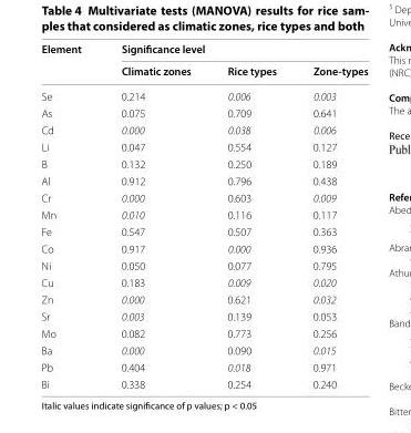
<table><thead><tr><td rowspan="2">Element</td><td colspan="3">Significance level</td></tr><tr><td>Climatic zones</td><td>Rice types</td><td>Zone-types</td></tr></thead><tbody><tr><td>Se</td><td>0.214</td><td>0.006</td><td>0.003</td></tr><tr><td>As</td><td>0.075</td><td>0.709</td><td>0.641</td></tr><tr><td>Cd</td><td>0.000</td><td>0.038</td><td>0.006</td></tr><tr><td>Li</td><td>0.047</td><td>0.554</td><td>0.127</td></tr><tr><td>B</td><td>0.132</td><td>0.250</td><td>0.189</td></tr><tr><td>Al</td><td>0.912</td><td>0.796</td><td>0.438</td></tr><tr><td>Cr</td><td>0.000</td><td>0.603</td><td>0.009</td></tr><tr><td>Mn</td><td>0.010</td><td>0.116</td><td>0.117</td></tr><tr><td>Fe</td><td>0.547</td><td>0.507</td><td>0.363</td></tr><tr><td>Co</td><td>0.917</td><td>0.000</td><td>0.936</td></tr><tr><td>Ni</td><td>0.050</td><td>0.077</td><td>0.795</td></tr><tr><td>Cu</td><td>0.183</td><td>0.009</td><td>0.020</td></tr><tr><td>Zn</td><td>0.000</td><td>0.621</td><td>0.032</td></tr><tr><td>Sr</td><td>0.003</td><td>0.139</td><td>0.053</td></tr><tr><td>Mo</td><td>0.082</td><td>0.773</td><td>0.256</td></tr><tr><td>Ba</td><td>0.000</td><td>0.090</td><td>0.015</td></tr><tr><td>Pb</td><td>0.404</td><td>0.018</td><td>0.971</td></tr><tr><td>Bi</td><td>0.338</td><td>0.254</td><td>0.240</td></tr></tbody></table>